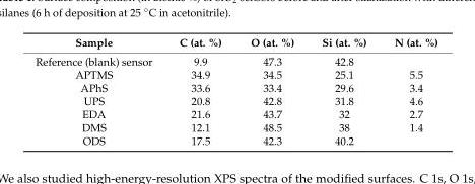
<table><thead><tr><td>Sample</td><td>C (at. %)</td><td>O (at. %)</td><td>Si (at. %)</td><td>N (at. %)</td></tr></thead><tbody><tr><td>Reference (blank) sensor</td><td>9.9</td><td>47.3</td><td>42.8</td><td></td></tr><tr><td>APTMS</td><td>34.9</td><td>34.5</td><td>25.1</td><td>5.5</td></tr><tr><td>APhS</td><td>33.6</td><td>33.4</td><td>29.6</td><td>3.4</td></tr><tr><td>UPS</td><td>20.8</td><td>42.8</td><td>31.8</td><td>4.6</td></tr><tr><td>EDA</td><td>21.6</td><td>43.7</td><td>32</td><td>2.7</td></tr><tr><td>DMS</td><td>12.1</td><td>48.5</td><td>38</td><td>1.4</td></tr><tr><td>ODS</td><td>17.5</td><td>42.3</td><td>40.2</td><td></td></tr></tbody></table>